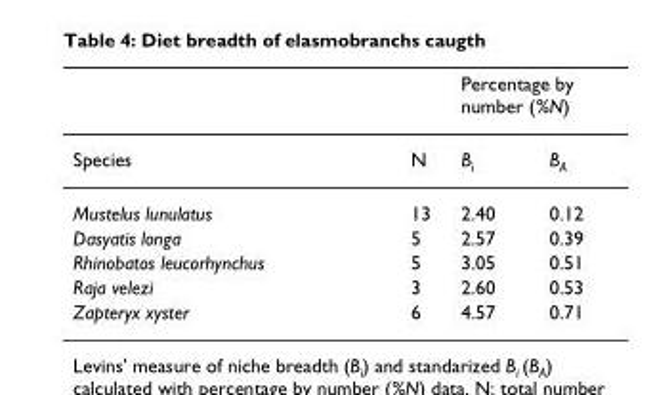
<table><thead><tr><td rowspan="2">Species</td><td rowspan="2">N</td><td colspan="2">Percentage by number (%N)</td></tr><tr><td>B<sub>i</sub></td><td>B<sub>A</sub></td></tr></thead><tbody><tr><td>Mustelus lunulatus</td><td>13</td><td>2.40</td><td>0.12</td></tr><tr><td>Dasyatis longa</td><td>5</td><td>2.57</td><td>0.39</td></tr><tr><td>Rhinobatos leucorhynchus</td><td>5</td><td>3.05</td><td>0.51</td></tr><tr><td>Raja velezi</td><td>3</td><td>2.60</td><td>0.53</td></tr><tr><td>Zapteryx xyster</td><td>6</td><td>4.57</td><td>0.71</td></tr></tbody></table>